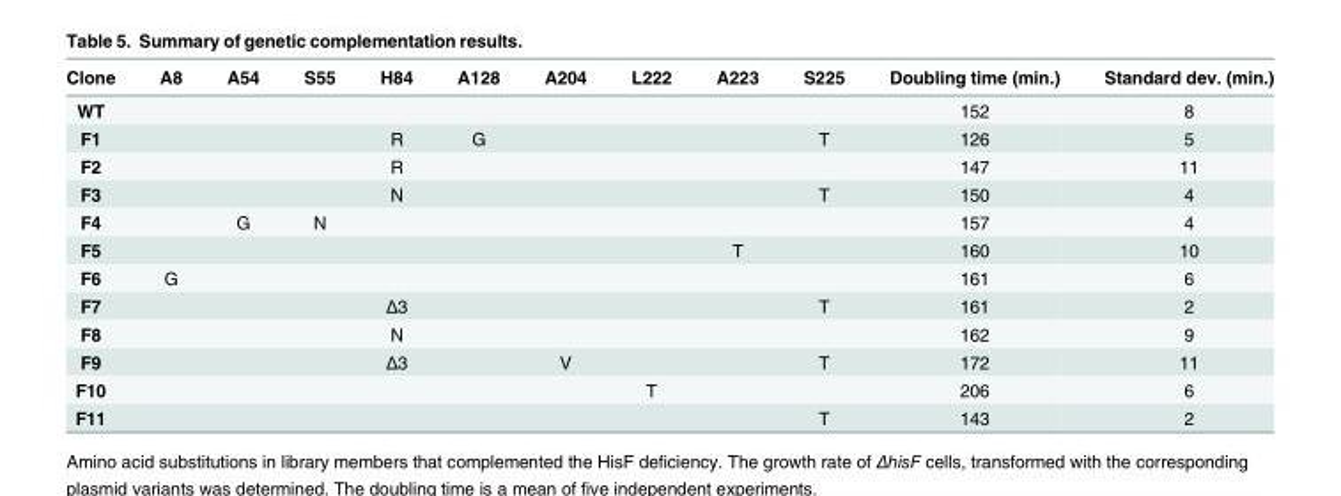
<table><thead><tr><td>Clone</td><td>A8</td><td>A54</td><td>S55</td><td>H84</td><td>A128</td><td>A204</td><td>L222</td><td>A223</td><td>S225</td><td>Doubling time (min.)</td><td>Standard dev. (min.)</td></tr></thead><tbody><tr><td>WT</td><td></td><td></td><td></td><td></td><td></td><td></td><td></td><td></td><td></td><td>152</td><td>8</td></tr><tr><td>F1</td><td></td><td></td><td></td><td>R</td><td>G</td><td></td><td></td><td></td><td>T</td><td>126</td><td>5</td></tr><tr><td>F2</td><td></td><td></td><td></td><td>R</td><td></td><td></td><td></td><td></td><td></td><td>147</td><td>11</td></tr><tr><td>F3</td><td></td><td></td><td></td><td>N</td><td></td><td></td><td></td><td></td><td>T</td><td>150</td><td>4</td></tr><tr><td>F4</td><td></td><td>G</td><td>N</td><td></td><td></td><td></td><td></td><td></td><td></td><td>157</td><td>4</td></tr><tr><td>F5</td><td></td><td></td><td></td><td></td><td></td><td></td><td></td><td>T</td><td></td><td>160</td><td>10</td></tr><tr><td>F6</td><td>G</td><td></td><td></td><td></td><td></td><td></td><td></td><td></td><td></td><td>161</td><td>6</td></tr><tr><td>F7</td><td></td><td></td><td></td><td>Δ3</td><td></td><td></td><td></td><td></td><td>T</td><td>161</td><td>2</td></tr><tr><td>F8</td><td></td><td></td><td></td><td>N</td><td></td><td></td><td></td><td></td><td></td><td>162</td><td>9</td></tr><tr><td>F9</td><td></td><td></td><td></td><td>Δ3</td><td></td><td>V</td><td></td><td></td><td>T</td><td>172</td><td>11</td></tr><tr><td>F10</td><td></td><td></td><td></td><td></td><td></td><td></td><td>T</td><td></td><td></td><td>206</td><td>6</td></tr><tr><td>F11</td><td></td><td></td><td></td><td></td><td></td><td></td><td></td><td></td><td>T</td><td>143</td><td>2</td></tr></tbody></table>